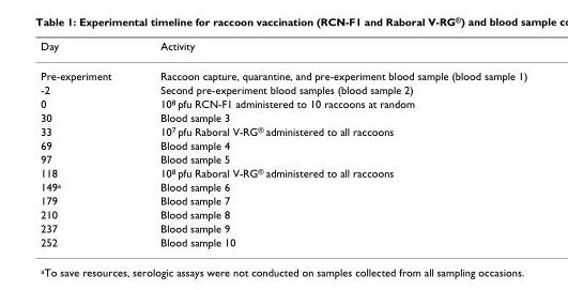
<table><thead><tr><td>Day</td><td>Activity</td></tr></thead><tbody><tr><td>Pre-experiment</td><td>Raccoon capture, quarantine, and pre-experiment blood sample (blood sample 1)</td></tr><tr><td>-2</td><td>Second pre-experiment blood samples (blood sample 2)</td></tr><tr><td>0</td><td>10<sup>8</sup> pfu RCN-F1 administered to 10 raccoons at random</td></tr><tr><td>30</td><td>Blood sample 3</td></tr><tr><td>33</td><td>10<sup>7</sup> pfu Raboral V-RG<sup>®</sup> administered to all raccoons</td></tr><tr><td>69</td><td>Blood sample 4</td></tr><tr><td>97</td><td>Blood sample 5</td></tr><tr><td>118</td><td>10<sup>8</sup> pfu Raboral V-RG<sup>®</sup> administered to all raccoons</td></tr><tr><td>149<sup>a</sup></td><td>Blood sample 6</td></tr><tr><td>179</td><td>Blood sample 7</td></tr><tr><td>210</td><td>Blood sample 8</td></tr><tr><td>237</td><td>Blood sample 9</td></tr><tr><td>252</td><td>Blood sample 10</td></tr></tbody></table>